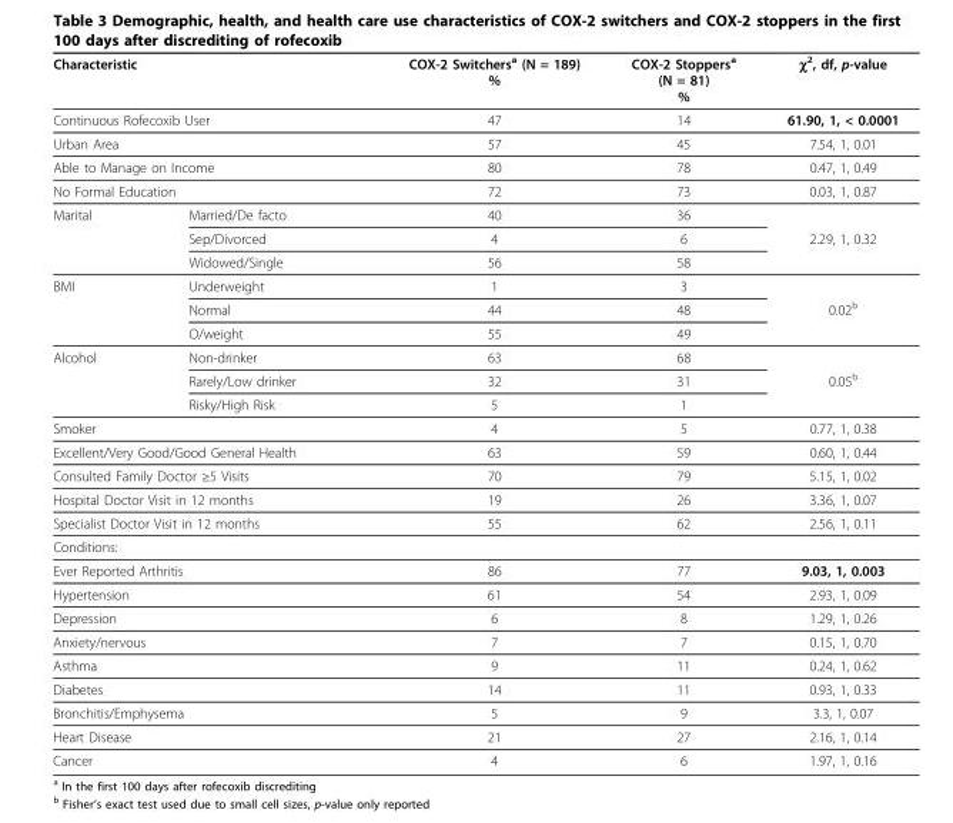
<table><thead><tr><td colspan="2">Characteristic</td><td>COX-2 Switchersa (N = 189) %</td><td>COX-2 Stoppersa (N = 81) %</td><td>χ2, df, p-value</td></tr></thead><tbody><tr><td colspan="2">Continuous Rofecoxib User</td><td>47</td><td>14</td><td>61.90, 1, &lt; 0.0001</td></tr><tr><td colspan="2">Urban Area</td><td>57</td><td>45</td><td>7.54, 1, 0.01</td></tr><tr><td colspan="2">Able to Manage on Income</td><td>80</td><td>78</td><td>0.47, 1, 0.49</td></tr><tr><td colspan="2">No Formal Education</td><td>72</td><td>73</td><td>0.03, 1, 0.87</td></tr><tr><td rowspan="3">Marital</td><td>Married/De facto</td><td>40</td><td>36</td><td></td></tr><tr><td>Sep/Divorced</td><td>4</td><td>6</td><td>2.29, 1, 0.32</td></tr><tr><td>Widowed/Single</td><td>56</td><td>58</td><td></td></tr><tr><td rowspan="3">BMI</td><td>Underweight</td><td>1</td><td>3</td><td></td></tr><tr><td>Normal</td><td>44</td><td>48</td><td>0.02b</td></tr><tr><td>O/weight</td><td>55</td><td>49</td><td></td></tr><tr><td rowspan="3">Alcohol</td><td>Non-drinker</td><td>63</td><td>68</td><td></td></tr><tr><td>Rarely/Low drinker</td><td>32</td><td>31</td><td>0.05b</td></tr><tr><td>Risky/High Risk</td><td>5</td><td>1</td><td></td></tr><tr><td colspan="2">Smoker</td><td>4</td><td>5</td><td>0.77, 1, 0.38</td></tr><tr><td colspan="2">Excellent/Very Good/Good General Health</td><td>63</td><td>59</td><td>0.60, 1, 0.44</td></tr><tr><td colspan="2">Consulted Family Doctor ≥5 Visits</td><td>70</td><td>79</td><td>5.15, 1, 0.02</td></tr><tr><td colspan="2">Hospital Doctor Visit in 12 months</td><td>19</td><td>26</td><td>3.36, 1, 0.07</td></tr><tr><td colspan="2">Specialist Doctor Visit in 12 months</td><td>55</td><td>62</td><td>2.56, 1, 0.11</td></tr><tr><td colspan="5">Conditions:</td></tr><tr><td colspan="2">Ever Reported Arthritis</td><td>86</td><td>77</td><td>9.03, 1, 0.003</td></tr><tr><td colspan="2">Hypertension</td><td>61</td><td>54</td><td>2.93, 1, 0.09</td></tr><tr><td colspan="2">Depression</td><td>6</td><td>8</td><td>1.29, 1, 0.26</td></tr><tr><td colspan="2">Anxiety/nervous</td><td>7</td><td>7</td><td>0.15, 1, 0.70</td></tr><tr><td colspan="2">Asthma</td><td>9</td><td>11</td><td>0.24, 1, 0.62</td></tr><tr><td colspan="2">Diabetes</td><td>14</td><td>11</td><td>0.93, 1, 0.33</td></tr><tr><td colspan="2">Bronchitis/Emphysema</td><td>5</td><td>9</td><td>3.3, 1, 0.07</td></tr><tr><td colspan="2">Heart Disease</td><td>21</td><td>27</td><td>2.16, 1, 0.14</td></tr><tr><td colspan="2">Cancer</td><td>4</td><td>6</td><td>1.97, 1, 0.16</td></tr></tbody></table>